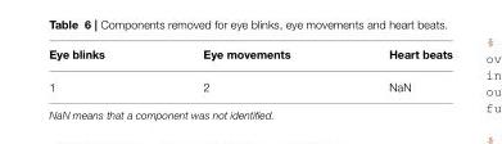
<table><thead><tr><td>Eye blinks</td><td>Eye movements</td><td>Heart beats</td></tr></thead><tbody><tr><td>1</td><td>2</td><td>NaN</td></tr></tbody></table>